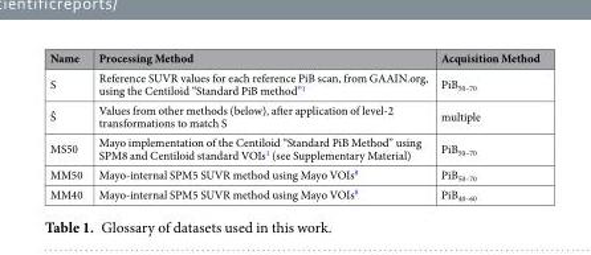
<table><thead><tr><td>Name</td><td>Processing Method</td><td>Acquisition Method</td></tr></thead><tbody><tr><td>S</td><td>Reference SUVR values for each reference PiB scan, from GAAIN.org, using the Centiloid “Standard PiB method”<sup>1</sup></td><td>PiB<sub>50–70</sub></td></tr><tr><td>Ŝ</td><td>Values from other methods (below), after application of level-2 transformations to match S</td><td>multiple</td></tr><tr><td>MS50</td><td>Mayo implementation of the Centiloid “Standard PiB Method” using SPM8 and Centiloid standard VOIs<sup>1</sup> (see Supplementary Material)</td><td>PiB<sub>50–70</sub></td></tr><tr><td>MM50</td><td>Mayo-internal SPM5 SUVR method using Mayo VOIs<sup>8</sup></td><td>PiB<sub>50–70</sub></td></tr><tr><td>MM40</td><td>Mayo-internal SPM5 SUVR method using Mayo VOIs<sup>8</sup></td><td>PiB<sub>40–60</sub></td></tr></tbody></table>